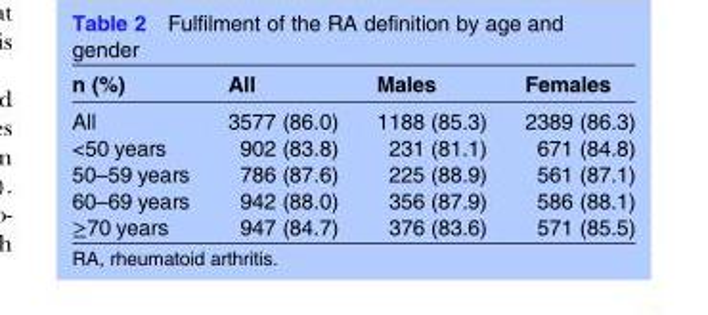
<table><thead><tr><td>n (%)</td><td>All</td><td>Males</td><td>Females</td></tr></thead><tbody><tr><td>All</td><td>3577 (86.0)</td><td>1188 (85.3)</td><td>2389 (86.3)</td></tr><tr><td>&lt;50 years</td><td>902 (83.8)</td><td>231 (81.1)</td><td>671 (84.8)</td></tr><tr><td>50–59 years</td><td>786 (87.6)</td><td>225 (88.9)</td><td>561 (87.1)</td></tr><tr><td>60–69 years</td><td>942 (88.0)</td><td>356 (87.9)</td><td>586 (88.1)</td></tr><tr><td>≥70 years</td><td>947 (84.7)</td><td>376 (83.6)</td><td>571 (85.5)</td></tr></tbody></table>